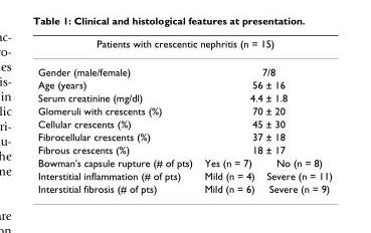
<table><thead><tr><td colspan="3">Patients with crescentic nephritis (n = 15)</td></tr></thead><tbody><tr><td>Gender (male/female)</td><td colspan="2">7/8</td></tr><tr><td>Age (years)</td><td colspan="2">56 ± 16</td></tr><tr><td>Serum creatinine (mg/dl)</td><td colspan="2">4.4 ± 1.8</td></tr><tr><td>Glomeruli with crescents (%)</td><td colspan="2">70 ± 20</td></tr><tr><td>Cellular crescents (%)</td><td colspan="2">45 ± 30</td></tr><tr><td>Fibrocellular crescents (%)</td><td colspan="2">37 ± 18</td></tr><tr><td>Fibrous crescents (%)</td><td colspan="2">18 ± 17</td></tr><tr><td>Bowman&#x27;s capsule rupture (# of pts)</td><td>Yes (n = 7)</td><td>No (n = 8)</td></tr><tr><td>Interstitial inflammation (# of pts)</td><td>Mild (n = 4)</td><td>Severe (n = 11)</td></tr><tr><td>Interstitial fibrosis (# of pts)</td><td>Mild (n = 6)</td><td>Severe (n = 9)</td></tr></tbody></table>